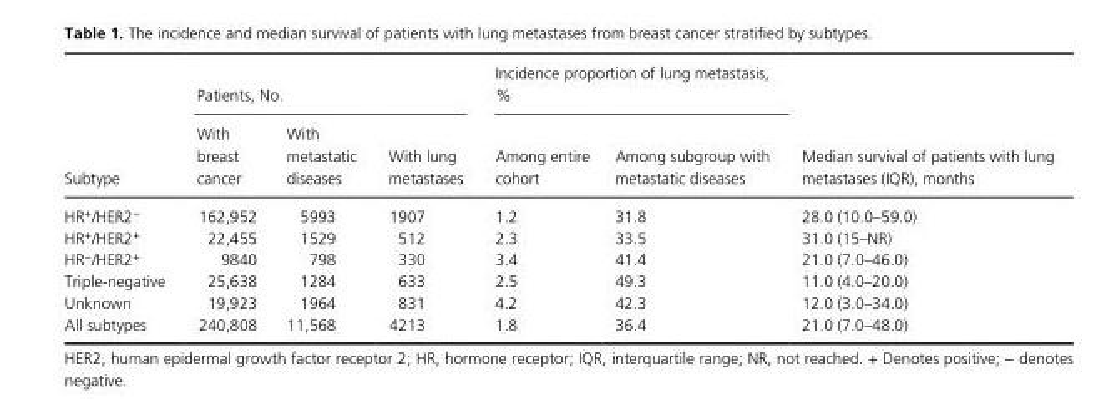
<table><thead><tr><td rowspan="2">Subtype</td><td colspan="3">Patients, No.</td><td colspan="2">Incidence proportion of lung metastasis, %</td><td rowspan="2">Median survival of patients with lung metastases (IQR), months</td></tr><tr><td>With breast cancer</td><td>With metastatic diseases</td><td>With lung metastases</td><td>Among entire cohort</td><td>Among subgroup with metastatic diseases</td></tr></thead><tbody><tr><td>HR<sup>+</sup>/HER2<sup>−</sup></td><td>162,952</td><td>5993</td><td>1907</td><td>1.2</td><td>31.8</td><td>28.0 (10.0–59.0)</td></tr><tr><td>HR<sup>+</sup>/HER2<sup>+</sup></td><td>22,455</td><td>1529</td><td>512</td><td>2.3</td><td>33.5</td><td>31.0 (15–NR)</td></tr><tr><td>HR<sup>−</sup>/HER2<sup>+</sup></td><td>9840</td><td>798</td><td>330</td><td>3.4</td><td>41.4</td><td>21.0 (7.0–46.0)</td></tr><tr><td>Triple- negative</td><td>25,638</td><td>1284</td><td>633</td><td>2.5</td><td>49.3</td><td>11.0 (4.0–20.0)</td></tr><tr><td>Unknown</td><td>19,923</td><td>1964</td><td>831</td><td>4.2</td><td>42.3</td><td>12.0 (3.0–34.0)</td></tr><tr><td>All subtypes</td><td>240,808</td><td>11,568</td><td>4213</td><td>1.8</td><td>36.4</td><td>21.0 (7.0–48.0)</td></tr></tbody></table>